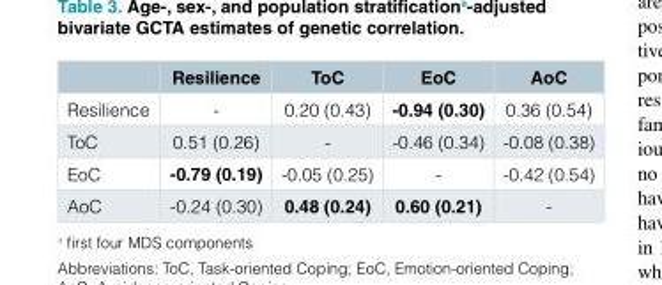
<table><thead><tr><td></td><td>Resilience</td><td>ToC</td><td>EoC</td><td>AoC</td></tr></thead><tbody><tr><td>Resilience</td><td>-</td><td>0.20 (0.43)</td><td>-0.94 (0.30)</td><td>0.36 (0.54)</td></tr><tr><td>ToC</td><td>0.51 (0.26)</td><td>-</td><td>-0.46 (0.34)</td><td>-0.08 (0.38)</td></tr><tr><td>EoC</td><td>-0.79 (0.19)</td><td>-0.05 (0.25)</td><td>-</td><td>-0.42 (0.54)</td></tr><tr><td>AoC</td><td>-0.24 (0.30)</td><td>0.48 (0.24)</td><td>0.60 (0.21)</td><td>-</td></tr></tbody></table>